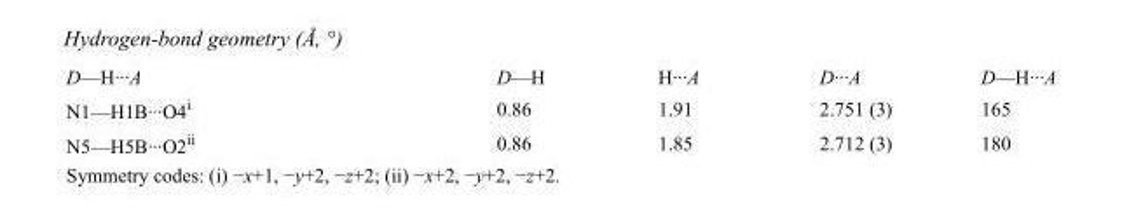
<table><tbody><tr><td>D—H···A</td><td>D—H</td><td>H···A</td><td>D···A</td><td>D—H···A</td></tr><tr><td>N1—H1B···O4<sup>i</sup></td><td>0.86</td><td>1.91</td><td>2.751 (3)</td><td>165</td></tr><tr><td>N5—H5B···O2<sup>ii</sup></td><td>0.86</td><td>1.85</td><td>2.712 (3)</td><td>180</td></tr></tbody></table>